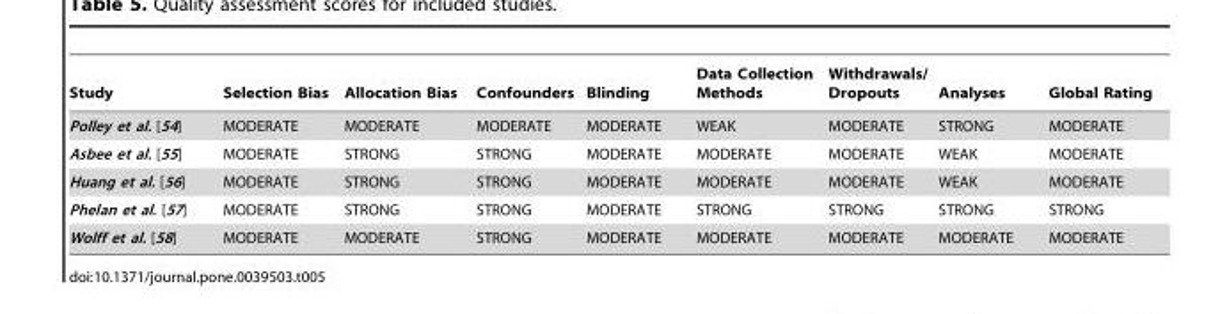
<table><thead><tr><td>Study</td><td>Selection Bias</td><td>Allocation Bias</td><td>Confounders</td><td>Blinding</td><td>Data Collection Methods</td><td>Withdrawals/ Dropouts</td><td>Analyses</td><td>Global Rating</td></tr></thead><tbody><tr><td>Polley et al. [54]</td><td>MODERATE</td><td>MODERATE</td><td>MODERATE</td><td>MODERATE</td><td>WEAK</td><td>MODERATE</td><td>STRONG</td><td>MODERATE</td></tr><tr><td>Asbee et al. [55]</td><td>MODERATE</td><td>STRONG</td><td>STRONG</td><td>MODERATE</td><td>MODERATE</td><td>MODERATE</td><td>WEAK</td><td>MODERATE</td></tr><tr><td>Huang et al. [56]</td><td>MODERATE</td><td>STRONG</td><td>STRONG</td><td>MODERATE</td><td>MODERATE</td><td>MODERATE</td><td>WEAK</td><td>MODERATE</td></tr><tr><td>Phelan et al. [57]</td><td>MODERATE</td><td>STRONG</td><td>STRONG</td><td>MODERATE</td><td>STRONG</td><td>STRONG</td><td>STRONG</td><td>STRONG</td></tr><tr><td>Wolff et al. [58]</td><td>MODERATE</td><td>MODERATE</td><td>STRONG</td><td>MODERATE</td><td>MODERATE</td><td>MODERATE</td><td>MODERATE</td><td>MODERATE</td></tr></tbody></table>